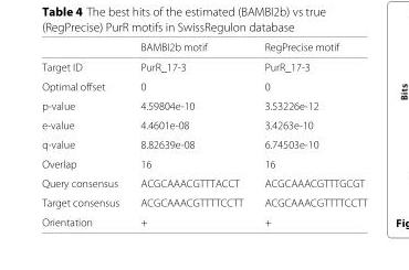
<table><thead><tr><td></td><td>BAMBI2b motif</td><td>RegPrecise motif</td></tr></thead><tbody><tr><td>Target ID</td><td>PurR_17-3</td><td>PurR_17-3</td></tr><tr><td>Optimal offset</td><td>0</td><td>0</td></tr><tr><td>p-value</td><td>4.59804e-10</td><td>3.53226e-12</td></tr><tr><td>e-value</td><td>4.4601e-08</td><td>3.4263e-10</td></tr><tr><td>q-value</td><td>8.82639e-08</td><td>6.74503e-10</td></tr><tr><td>Overlap</td><td>16</td><td>16</td></tr><tr><td>Query consensus</td><td>ACGCAAACGTTTACCT</td><td>ACGCAAACGTTTGCGT</td></tr><tr><td>Target consensus</td><td>ACGCAAACGTTTTCCTT</td><td>ACGCAAACGTTTTCCTT</td></tr><tr><td>Orientation</td><td>+</td><td>+</td></tr></tbody></table>